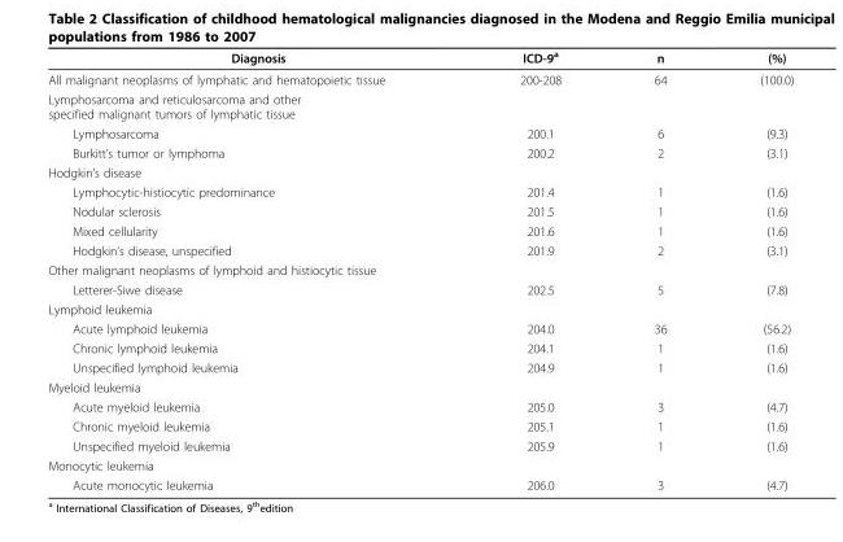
<table><thead><tr><td>Diagnosis</td><td>ICD-9<sup>a</sup></td><td>n</td><td>(%)</td></tr></thead><tbody><tr><td>All malignant neoplasms of lymphatic and hematopoietic tissue</td><td>200-208</td><td>64</td><td>(100.0)</td></tr><tr><td colspan="4">Lymphosarcoma and reticulosarcoma and other specified malignant tumors of lymphatic tissue</td></tr><tr><td>Lymphosarcoma</td><td>200.1</td><td>6</td><td>(9.3)</td></tr><tr><td>Burkitt’s tumor or lymphoma</td><td>200.2</td><td>2</td><td>(3.1)</td></tr><tr><td colspan="4">Hodgkin’s disease</td></tr><tr><td>Lymphocytic-histiocytic predominance</td><td>201.4</td><td>1</td><td>(1.6)</td></tr><tr><td>Nodular sclerosis</td><td>201.5</td><td>1</td><td>(1.6)</td></tr><tr><td>Mixed cellularity</td><td>201.6</td><td>1</td><td>(1.6)</td></tr><tr><td>Hodgkin’s disease, unspecified</td><td>201.9</td><td>2</td><td>(3.1)</td></tr><tr><td colspan="4">Other malignant neoplasms of lymphoid and histiocytic tissue</td></tr><tr><td>Letterer-Siwe disease</td><td>202.5</td><td>5</td><td>(7.8)</td></tr><tr><td colspan="4">Lymphoid leukemia</td></tr><tr><td>Acute lymphoid leukemia</td><td>204.0</td><td>36</td><td>(56.2)</td></tr><tr><td>Chronic lymphoid leukemia</td><td>204.1</td><td>1</td><td>(1.6)</td></tr><tr><td>Unspecified lymphoid leukemia</td><td>204.9</td><td>1</td><td>(1.6)</td></tr><tr><td colspan="4">Myeloid leukemia</td></tr><tr><td>Acute myeloid leukemia</td><td>205.0</td><td>3</td><td>(4.7)</td></tr><tr><td>Chronic myeloid leukemia</td><td>205.1</td><td>1</td><td>(1.6)</td></tr><tr><td>Unspecified myeloid leukemia</td><td>205.9</td><td>1</td><td>(1.6)</td></tr><tr><td colspan="4">Monocytic leukemia</td></tr><tr><td>Acute monocytic leukemia</td><td>206.0</td><td>3</td><td>(4.7)</td></tr></tbody></table>